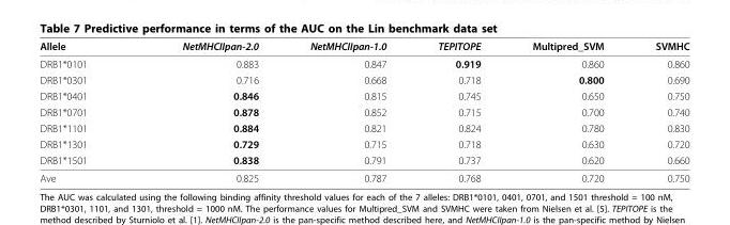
<table><thead><tr><td>Allele</td><td>NetMHCIIpan-2.0</td><td>NetMHCIIpan-1.0</td><td>TEPITOPE</td><td>Multipred_SVM</td><td>SVMHC</td></tr></thead><tbody><tr><td>DRB1*0101</td><td>0.883</td><td>0.847</td><td>0.919</td><td>0.860</td><td>0.860</td></tr><tr><td>DRB1*0301</td><td>0.716</td><td>0.668</td><td>0.718</td><td>0.800</td><td>0.690</td></tr><tr><td>DRB1*0401</td><td>0.846</td><td>0.815</td><td>0.745</td><td>0.650</td><td>0.750</td></tr><tr><td>DRB1*0701</td><td>0.878</td><td>0.852</td><td>0.715</td><td>0.700</td><td>0.740</td></tr><tr><td>DRB1*1101</td><td>0.884</td><td>0.821</td><td>0.824</td><td>0.780</td><td>0.830</td></tr><tr><td>DRB1*1301</td><td>0.729</td><td>0.715</td><td>0.718</td><td>0.630</td><td>0.720</td></tr><tr><td>DRB1*1501</td><td>0.838</td><td>0.791</td><td>0.737</td><td>0.620</td><td>0.660</td></tr><tr><td>Ave</td><td>0.825</td><td>0.787</td><td>0.768</td><td>0.720</td><td>0.750</td></tr></tbody></table>